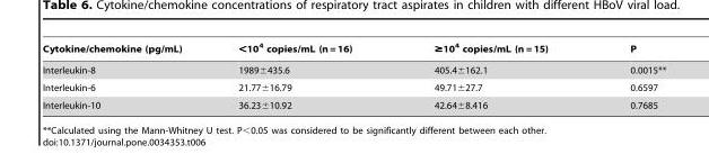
<table><thead><tr><td>Cytokine/chemokine (pg/mL)</td><td>&lt;10<sup>4</sup> copies/mL (n = 16)</td><td>≥10<sup>4</sup> copies/mL (n = 15)</td><td>P</td></tr></thead><tbody><tr><td>Interleukin-8</td><td>1989±435.6</td><td>405.4±162.1</td><td>0.0015**</td></tr><tr><td>Interleukin-6</td><td>21.77±16.79</td><td>49.71±27.7</td><td>0.6597</td></tr><tr><td>Interleukin-10</td><td>36.23±10.92</td><td>42.64±8.416</td><td>0.7685</td></tr></tbody></table>